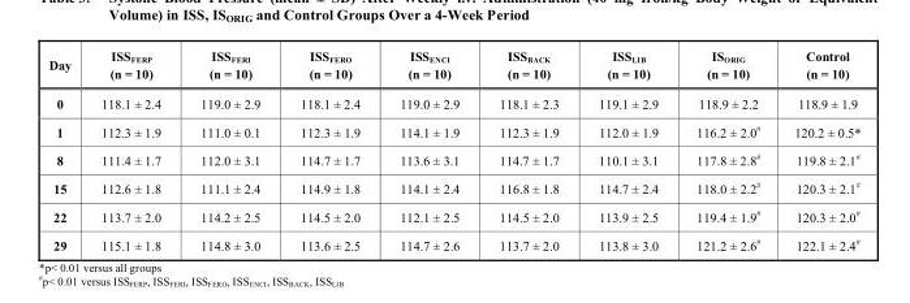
<table><thead><tr><td>Day</td><td>ISS<sub>FERP</sub> (n = 10)</td><td>ISS<sub>FERI</sub> (n = 10)</td><td>ISS<sub>FERO</sub> (n = 10)</td><td>ISS<sub>ENCI</sub> (n = 10)</td><td>ISS<sub>BACK</sub> (n = 10)</td><td>ISS<sub>LIB</sub> (n = 10)</td><td>IS<sub>ORIG</sub> (n = 10)</td><td>Control (n = 10)</td></tr></thead><tbody><tr><td>0</td><td>118.1 ± 2.4</td><td>119.0 ± 2.9</td><td>118.1 ± 2.4</td><td>119.0 ± 2.9</td><td>118.1 ± 2.3</td><td>119.1 ± 2.9</td><td>118.9 ± 2.2</td><td>118.9 ± 1.9</td></tr><tr><td>1</td><td>112.3 ± 1.9</td><td>111.0 ± 0.1</td><td>112.3 ± 1.9</td><td>114.1 ± 1.9</td><td>112.3 ± 1.9</td><td>112.0 ± 1.9</td><td>116.2 ± 2.0#</td><td>120.2 ± 0.5*</td></tr><tr><td>8</td><td>111.4 ± 1.7</td><td>112.0 ± 3.1</td><td>114.7 ± 1.7</td><td>113.6 ± 3.1</td><td>114.7 ± 1.7</td><td>110.1 ± 3.1</td><td>117.8 ± 2.8#</td><td>119.8 ± 2.1#</td></tr><tr><td>15</td><td>112.6 ± 1.8</td><td>111.1 ± 2.4</td><td>114.9 ± 1.8</td><td>114.1 ± 2.4</td><td>116.8 ± 1.8</td><td>114.7 ± 2.4</td><td>118.0 ± 2.2#</td><td>120.3 ± 2.1#</td></tr><tr><td>22</td><td>113.7 ± 2.0</td><td>114.2 ± 2.5</td><td>114.5 ± 2.0</td><td>112.1 ± 2.5</td><td>114.5 ± 2.0</td><td>113.9 ± 2.5</td><td>119.4 ± 1.9#</td><td>120.3 ± 2.0#</td></tr><tr><td>29</td><td>115.1 ± 1.8</td><td>114.8 ± 3.0</td><td>113.6 ± 2.5</td><td>114.7 ± 2.6</td><td>113.7 ± 2.0</td><td>113.8 ± 3.0</td><td>121.2 ± 2.6#</td><td>122.1 ± 2.4#</td></tr></tbody></table>